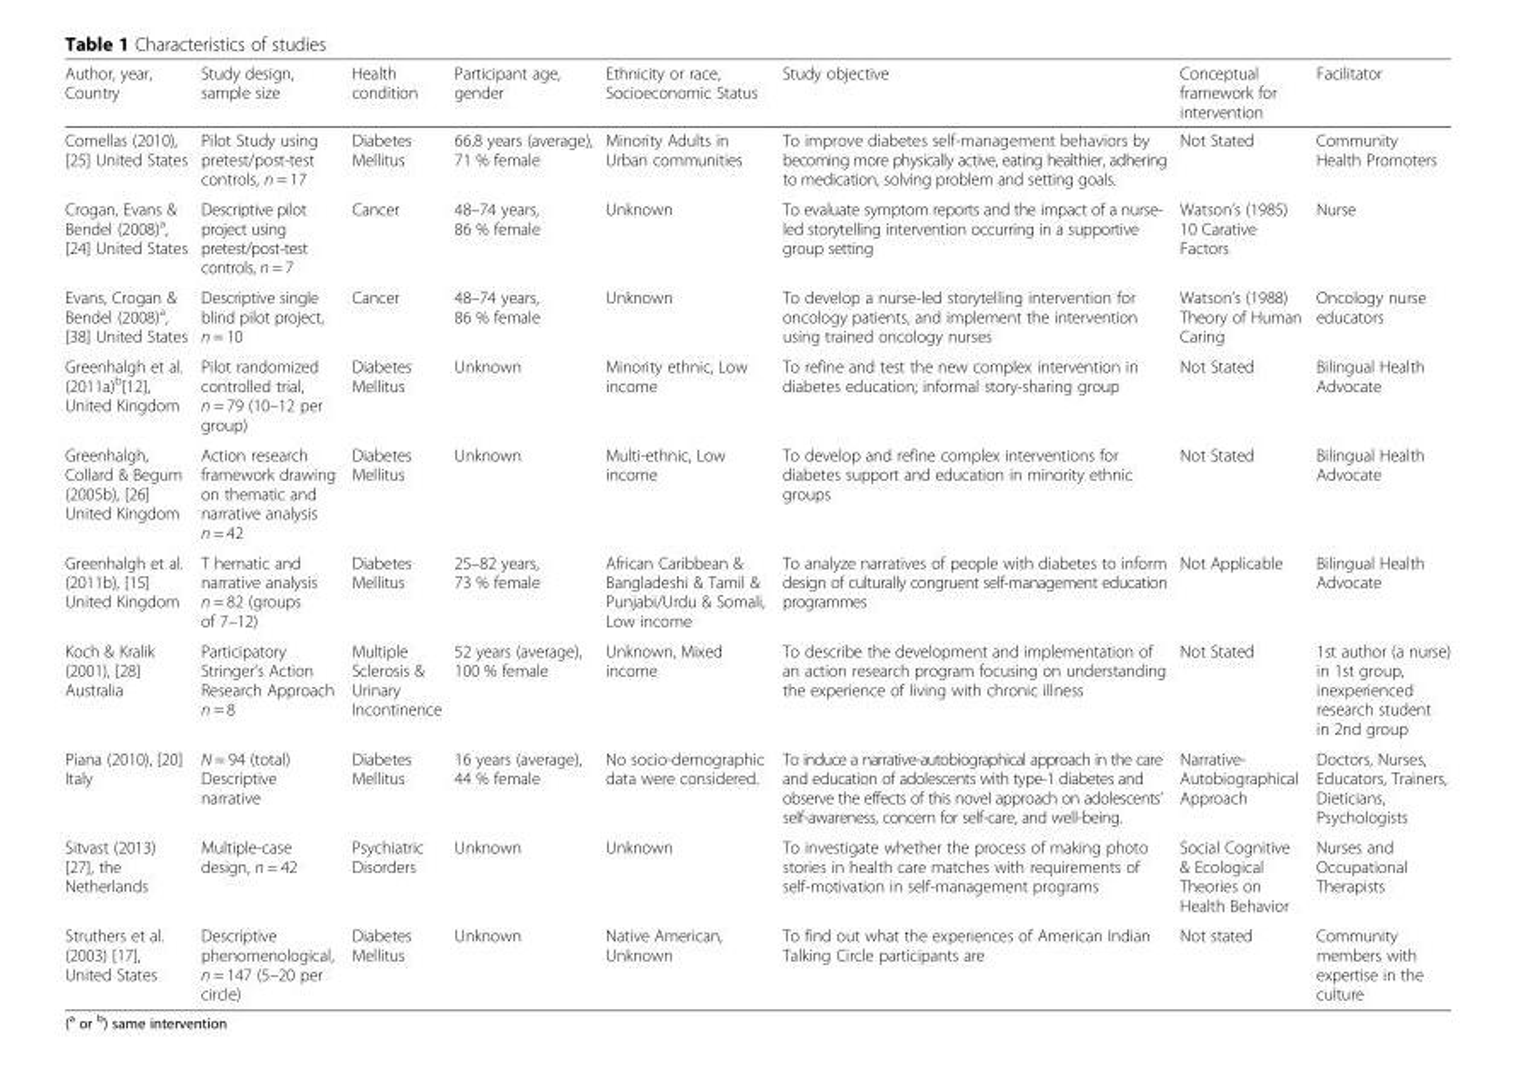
<table><thead><tr><td>Author, year, Country</td><td>Study design, sample size</td><td>Health condition</td><td>Participant age, gender</td><td>Ethnicity or race, Socioeconomic Status</td><td>Study objective</td><td>Conceptual framework for intervention</td><td>Facilitator</td></tr></thead><tbody><tr><td>Comellas (2010), [25] United States</td><td>Pilot Study using pretest/post-test controls, n = 17</td><td>Diabetes Mellitus</td><td>66.8 years (average), 71 % female</td><td>Minority Adults in Urban communities</td><td>To improve diabetes self-management behaviors by becoming more physically active, eating healthier, adhering to medication, solving problem and setting goals.</td><td>Not Stated</td><td>Community Health Promoters</td></tr><tr><td>Crogan, Evans &amp; Bendel (2008)<sup>a</sup>, [24] United States</td><td>Descriptive pilot project using pretest/post-test controls, n = 7</td><td>Cancer</td><td>48–74 years, 86 % female</td><td>Unknown</td><td>To evaluate symptom reports and the impact of a nurse- led storytelling intervention occurring in a supportive group setting</td><td>Watson’s (1985) 10 Carative Factors</td><td>Nurse</td></tr><tr><td>Evans, Crogan &amp; Bendel (2008)<sup>a</sup>, [38] United States</td><td>Descriptive single blind pilot project, n = 10</td><td>Cancer</td><td>48–74 years, 86 % female</td><td>Unknown</td><td>To develop a nurse-led storytelling intervention for oncology patients, and implement the intervention using trained oncology nurses</td><td>Watson’s (1988) Theory of Human Caring</td><td>Oncology nurse educators</td></tr><tr><td>Greenhalgh et al. (2011a)<sup>b</sup>[12], United Kingdom</td><td>Pilot randomized controlled trial, n = 79 (10–12 per group)</td><td>Diabetes Mellitus</td><td>Unknown</td><td>Minority ethnic, Low income</td><td>To refine and test the new complex intervention in diabetes education; informal story-sharing group</td><td>Not Stated</td><td>Bilingual Health Advocate</td></tr><tr><td>Greenhalgh, Collard &amp; Begum (2005b), [26] United Kingdom</td><td>Action research framework drawing on thematic and narrative analysis n = 42</td><td>Diabetes Mellitus</td><td>Unknown</td><td>Multi-ethnic, Low income</td><td>To develop and refine complex interventions for diabetes support and education in minority ethnic groups</td><td>Not Stated</td><td>Bilingual Health Advocate</td></tr><tr><td>Greenhalgh et al. (2011b), [15] United Kingdom</td><td>T hematic and narrative analysis n = 82 (groups of 7–12)</td><td>Diabetes Mellitus</td><td>25–82 years, 73 % female</td><td>African Caribbean &amp; Bangladeshi &amp; Tamil &amp; Punjabi/Urdu &amp; Somali, Low income</td><td>To analyze narratives of people with diabetes to inform design of culturally congruent self-management education programmes</td><td>Not Applicable</td><td>Bilingual Health Advocate</td></tr><tr><td>Koch &amp; Kralik (2001), [28] Australia</td><td>Participatory Stringer’s Action Research Approach n = 8</td><td>Multiple Sclerosis &amp; Urinary Incontinence</td><td>52 years (average), 100 % female</td><td>Unknown, Mixed income</td><td>To describe the development and implementation of an action research program focusing on understanding the experience of living with chronic illness</td><td>Not Stated</td><td>1st author (a nurse) in 1st group, inexperienced research student in 2nd group</td></tr><tr><td>Piana (2010), [20] Italy</td><td>N = 94 (total) Descriptive narrative</td><td>Diabetes Mellitus</td><td>16 years (average), 44 % female</td><td>No socio-demographic data were considered.</td><td>To induce a narrative-autobiographical approach in the care and education of adolescents with type-1 diabetes and observe the effects of this novel approach on adolescents’ self-awareness, concern for self-care, and well-being.</td><td>Narrative- Autobiographical Approach</td><td>Doctors, Nurses, Educators, Trainers, Dieticians, Psychologists</td></tr><tr><td>Sitvast (2013) [27], the Netherlands</td><td>Multiple-case design, n = 42</td><td>Psychiatric Disorders</td><td>Unknown</td><td>Unknown</td><td>To investigate whether the process of making photo stories in health care matches with requirements of self-motivation in self-management programs</td><td>Social Cognitive &amp; Ecological Theories on Health Behavior</td><td>Nurses and Occupational Therapists</td></tr><tr><td>Struthers et al. (2003) [17], United States</td><td>Descriptive phenomenological, n = 147 (5–20 per circle)</td><td>Diabetes Mellitus</td><td>Unknown</td><td>Native American, Unknown</td><td>To find out what the experiences of American Indian Talking Circle participants are</td><td>Not stated</td><td>Community members with expertise in the culture</td></tr></tbody></table>